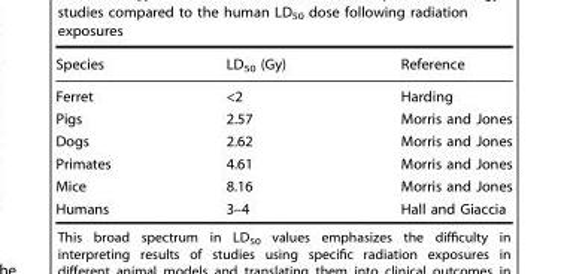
<table><thead><tr><td>Species</td><td>LD<sub>50</sub> (Gy)</td><td>Reference</td></tr></thead><tbody><tr><td>Ferret</td><td>&lt;2</td><td>Harding</td></tr><tr><td>Pigs</td><td>2.57</td><td>Morris and Jones</td></tr><tr><td>Dogs</td><td>2.62</td><td>Morris and Jones</td></tr><tr><td>Primates</td><td>4.61</td><td>Morris and Jones</td></tr><tr><td>Mice</td><td>8.16</td><td>Morris and Jones</td></tr><tr><td>Humans</td><td>3–4</td><td>Hall and Giaccia</td></tr></tbody></table>